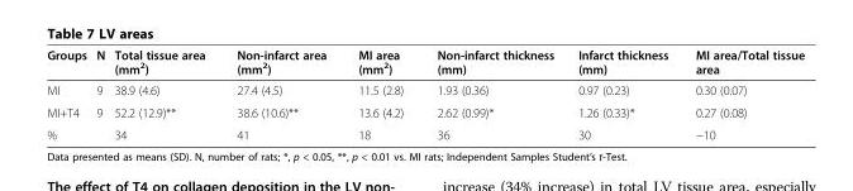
<table><thead><tr><td>Groups</td><td>N</td><td>Total tissue area (mm<sup>2</sup>)</td><td>Non-infarct area (mm<sup>2</sup>)</td><td>MI area (mm<sup>2</sup>)</td><td>Non-infarct thickness (mm)</td><td>Infarct thickness (mm)</td><td>MI area/Total tissue area</td></tr></thead><tbody><tr><td>MI</td><td>9</td><td>38.9 (4.6)</td><td>27.4 (4.5)</td><td>11.5 (2.8)</td><td>1.93 (0.36)</td><td>0.97 (0.23)</td><td>0.30 (0.07)</td></tr><tr><td>MI+T4</td><td>9</td><td>52.2 (12.9)**</td><td>38.6 (10.6)**</td><td>13.6 (4.2)</td><td>2.62 (0.99)*</td><td>1.26 (0.33)*</td><td>0.27 (0.08)</td></tr><tr><td>%</td><td></td><td>34</td><td>41</td><td>18</td><td>36</td><td>30</td><td>−10</td></tr></tbody></table>